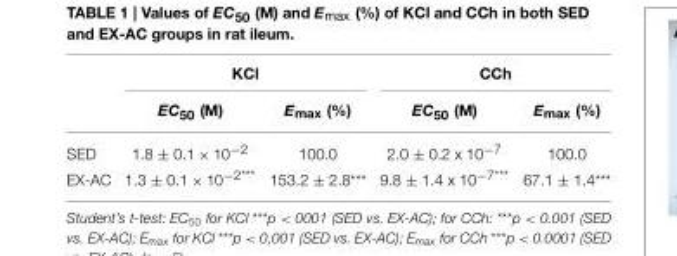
<table><thead><tr><td rowspan="2"></td><td colspan="2">KCl</td><td colspan="2">CCh</td></tr><tr><td>EC<sub>50</sub> (M)</td><td>E<sub>max</sub> (%)</td><td>EC<sub>50</sub> (M)</td><td>E<sub>max</sub> (%)</td></tr></thead><tbody><tr><td>SED</td><td>1.8 ± 0.1 × 10<sup>−2</sup></td><td>100.0</td><td>2.0 ± 0.2 x 10<sup>−7</sup></td><td>100.0</td></tr><tr><td>EX-AC</td><td>1.3 ± 0.1 × 10−2***</td><td>153.2 ± 2.8***</td><td>9.8 ± 1.4 x 10−7***</td><td>67.1 ± 1.4***</td></tr></tbody></table>